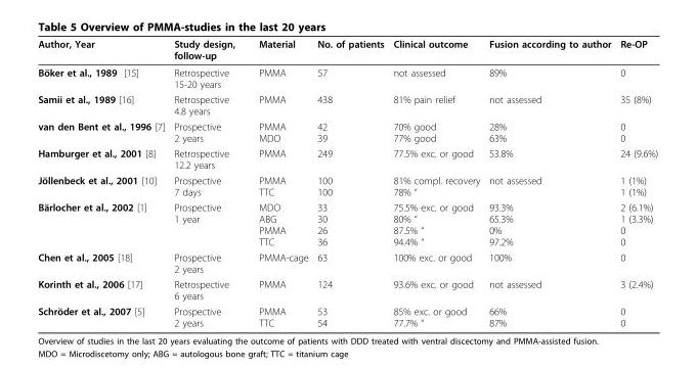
<table><thead><tr><td>Author, Year</td><td>Study design, follow-up</td><td>Material</td><td>No. of patients</td><td>Clinical outcome</td><td>Fusion according to author</td><td>Re-OP</td></tr></thead><tbody><tr><td>Böker et al., 1989 [15]</td><td>Retrospective 15-20 years</td><td>PMMA</td><td>57</td><td>not assessed</td><td>89%</td><td>0</td></tr><tr><td>Samii et al., 1989 [16]</td><td>Retrospective 4.8 years</td><td>PMMA</td><td>438</td><td>81% pain relief</td><td>not assessed</td><td>35 (8%)</td></tr><tr><td>van den Bent et al., 1996 [7]</td><td>Prospective 2 years</td><td>PMMA MDO</td><td>42 39</td><td>70% good 77% good</td><td>28% 63%</td><td>0 0</td></tr><tr><td>Hamburger et al., 2001 [8]</td><td>Retrospective 12.2 years</td><td>PMMA</td><td>249</td><td>77.5% exc. or good</td><td>53.8%</td><td>24 (9.6%)</td></tr><tr><td>Jöllenbeck et al., 2001 [10]</td><td>Prospective 7 days</td><td>PMMA TTC</td><td>100 100</td><td>81% compl. recovery 78% “</td><td>not assessed</td><td>1 (1%) 1 (1%)</td></tr><tr><td>Bärlocher et al., 2002 [1]</td><td>Prospective 1 year</td><td>MDO ABG PMMA TTC</td><td>33 30 26 36</td><td>75.5% exc. or good 80% “ 87.5% “ 94.4% “</td><td>93.3% 65.3% 0% 97.2%</td><td>2 (6.1%) 1 (3.3%) 0 0</td></tr><tr><td>Chen et al., 2005 [18]</td><td>Prospective 2 years</td><td>PMMA-cage</td><td>63</td><td>100% exc. or good</td><td>100%</td><td>0</td></tr><tr><td>Korinth et al., 2006 [17]</td><td>Retrospective 6 years</td><td>PMMA</td><td>124</td><td>93.6% exc. or good</td><td>not assessed</td><td>3 (2.4%)</td></tr><tr><td>Schröder et al., 2007 [5]</td><td>Prospective 2 years</td><td>PMMA TTC</td><td>53 54</td><td>85% exc. or good 77.7% “</td><td>66% 87%</td><td>0 0</td></tr></tbody></table>